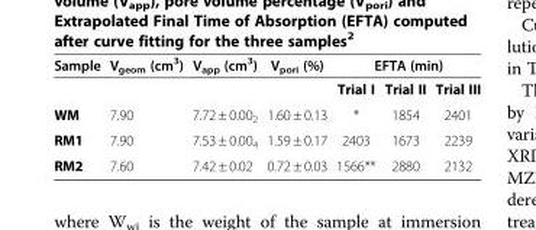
<table><thead><tr><td rowspan="2">Sample</td><td rowspan="2">V<sub>geom</sub> (cm<sup>3</sup>)</td><td rowspan="2">V<sub>app</sub> (cm<sup>3</sup>)</td><td rowspan="2">V<sub>pori</sub> (%)</td><td colspan="3">EFTA (min)</td></tr><tr><td>Trial I</td><td>Trial II</td><td>Trial III</td></tr></thead><tbody><tr><td>WM</td><td>7.90</td><td>7.72 ± 0.00<sub>2</sub></td><td>1.60 ± 0.13</td><td>*</td><td>1854</td><td>2401</td></tr><tr><td>RM1</td><td>7.90</td><td>7.53 ± 0.00<sub>4</sub></td><td>1.59 ± 0.17</td><td>2403</td><td>1673</td><td>2239</td></tr><tr><td>RM2</td><td>7.60</td><td>7.42 ± 0.02</td><td>0.72 ± 0.03</td><td>1566**</td><td>2880</td><td>2132</td></tr></tbody></table>